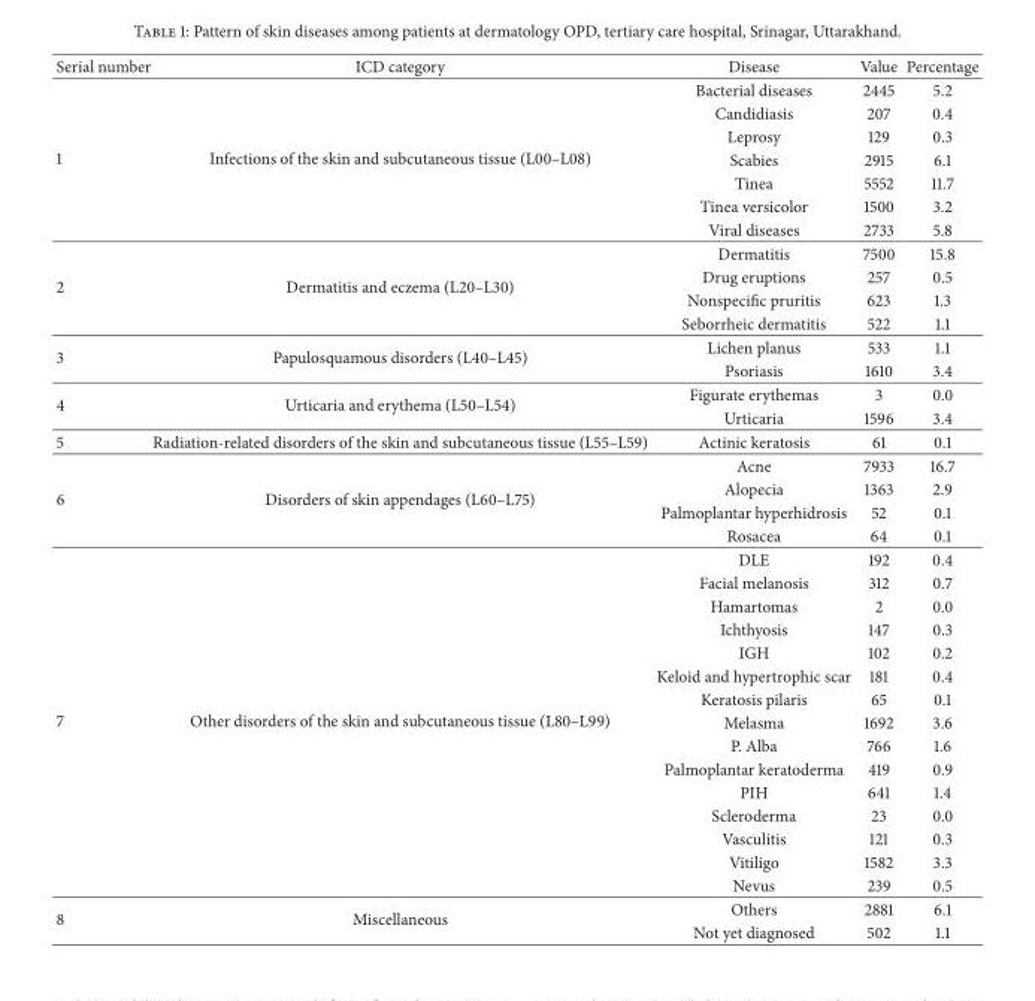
<table><thead><tr><td>Serial number</td><td>ICD category</td><td>Disease</td><td>Value</td><td>Percentage</td></tr></thead><tbody><tr><td rowspan="7">1</td><td rowspan="7">Infections of the skin and subcutaneous tissue (L00–L08)</td><td>Bacterial diseases</td><td>2445</td><td>5.2</td></tr><tr><td>Candidiasis</td><td>207</td><td>0.4</td></tr><tr><td>Leprosy</td><td>129</td><td>0.3</td></tr><tr><td>Scabies</td><td>2915</td><td>6.1</td></tr><tr><td>Tinea</td><td>5552</td><td>11.7</td></tr><tr><td>Tinea versicolor</td><td>1500</td><td>3.2</td></tr><tr><td>Viral diseases</td><td>2733</td><td>5.8</td></tr><tr><td rowspan="4">2</td><td rowspan="4">Dermatitis and eczema (L20–L30)</td><td>Dermatitis</td><td>7500</td><td>15.8</td></tr><tr><td>Drug eruptions</td><td>257</td><td>0.5</td></tr><tr><td>Nonspecific pruritis</td><td>623</td><td>1.3</td></tr><tr><td>Seborrheic dermatitis</td><td>522</td><td>1.1</td></tr><tr><td rowspan="2">3</td><td rowspan="2">Papulosquamous disorders (L40–L45)</td><td>Lichen planus</td><td>533</td><td>1.1</td></tr><tr><td>Psoriasis</td><td>1610</td><td>3.4</td></tr><tr><td rowspan="2">4</td><td rowspan="2">Urticaria and erythema (L50–L54)</td><td>Figurate erythemas</td><td>3</td><td>0.0</td></tr><tr><td>Urticaria</td><td>1596</td><td>3.4</td></tr><tr><td>5</td><td>Radiation-related disorders of the skin and subcutaneous tissue (L55–L59)</td><td>Actinic keratosis</td><td>61</td><td>0.1</td></tr><tr><td rowspan="4">6</td><td rowspan="4">Disorders of skin appendages (L60–L75)</td><td>Acne</td><td>7933</td><td>16.7</td></tr><tr><td>Alopecia</td><td>1363</td><td>2.9</td></tr><tr><td>Palmoplantar hyperhidrosis</td><td>52</td><td>0.1</td></tr><tr><td>Rosacea</td><td>64</td><td>0.1</td></tr><tr><td rowspan="15">7</td><td rowspan="15">Other disorders of the skin and subcutaneous tissue (L80–L99)</td><td>DLE</td><td>192</td><td>0.4</td></tr><tr><td>Facial melanosis</td><td>312</td><td>0.7</td></tr><tr><td>Hamartomas</td><td>2</td><td>0.0</td></tr><tr><td>Ichthyosis</td><td>147</td><td>0.3</td></tr><tr><td>IGH</td><td>102</td><td>0.2</td></tr><tr><td>Keloid and hypertrophic scar</td><td>181</td><td>0.4</td></tr><tr><td>Keratosis pilaris</td><td>65</td><td>0.1</td></tr><tr><td>Melasma</td><td>1692</td><td>3.6</td></tr><tr><td>P. Alba</td><td>766</td><td>1.6</td></tr><tr><td>Palmoplantar keratoderma</td><td>419</td><td>0.9</td></tr><tr><td>PIH</td><td>641</td><td>1.4</td></tr><tr><td>Scleroderma</td><td>23</td><td>0.0</td></tr><tr><td>Vasculitis</td><td>121</td><td>0.3</td></tr><tr><td>Vitiligo</td><td>1582</td><td>3.3</td></tr><tr><td>Nevus</td><td>239</td><td>0.5</td></tr><tr><td rowspan="2">8</td><td rowspan="2">Miscellaneous</td><td>Others</td><td>2881</td><td>6.1</td></tr><tr><td>Not yet diagnosed</td><td>502</td><td>1.1</td></tr></tbody></table>